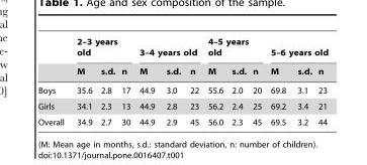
<table><thead><tr><td rowspan="2"></td><td colspan="3">2–3 years old</td><td colspan="3">3–4 years old</td><td colspan="3">4–5 years old</td><td colspan="3">5–6 years old</td></tr><tr><td>M</td><td>s.d.</td><td>n</td><td>M</td><td>s.d.</td><td>n</td><td>M</td><td>s.d.</td><td>n</td><td>M</td><td>s.d.</td><td>n</td></tr></thead><tbody><tr><td>Boys</td><td>35.6</td><td>2.8</td><td>17</td><td>44.9</td><td>3.0</td><td>22</td><td>55.6</td><td>2.0</td><td>20</td><td>69.8</td><td>3.1</td><td>23</td></tr><tr><td>Girls</td><td>34.1</td><td>2.3</td><td>13</td><td>44.9</td><td>2.8</td><td>23</td><td>56.2</td><td>2.4</td><td>25</td><td>69.2</td><td>3.4</td><td>21</td></tr><tr><td>Overall</td><td>34.9</td><td>2.7</td><td>30</td><td>44.9</td><td>2.9</td><td>45</td><td>56.0</td><td>2.3</td><td>45</td><td>69.5</td><td>3.2</td><td>44</td></tr></tbody></table>